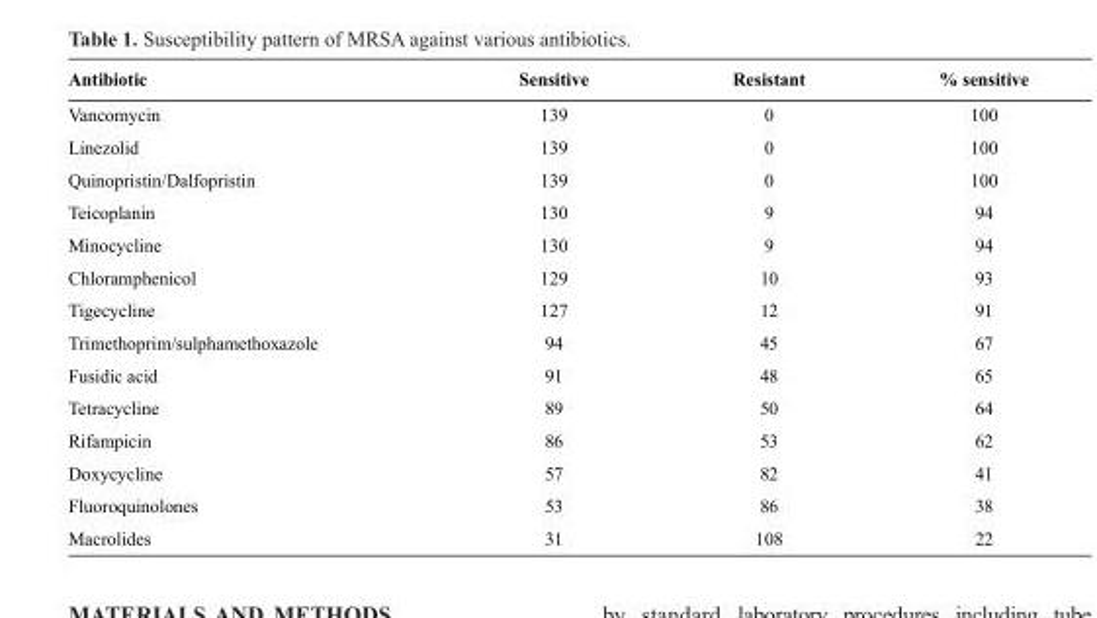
<table><thead><tr><td>Antibiotic</td><td>Sensitive</td><td>Resistant</td><td>% sensitive</td></tr></thead><tbody><tr><td>Vancomycin</td><td>139</td><td>0</td><td>100</td></tr><tr><td>Linezolid</td><td>139</td><td>0</td><td>100</td></tr><tr><td>Quinopristin/Dalfopristin</td><td>139</td><td>0</td><td>100</td></tr><tr><td>Teicoplanin</td><td>130</td><td>9</td><td>94</td></tr><tr><td>Minocycline</td><td>130</td><td>9</td><td>94</td></tr><tr><td>Chloramphenicol</td><td>129</td><td>10</td><td>93</td></tr><tr><td>Tigecycline</td><td>127</td><td>12</td><td>91</td></tr><tr><td>Trimethoprim/sulphamethoxazole</td><td>94</td><td>45</td><td>67</td></tr><tr><td>Fusidic acid</td><td>91</td><td>48</td><td>65</td></tr><tr><td>Tetracycline</td><td>89</td><td>50</td><td>64</td></tr><tr><td>Rifampicin</td><td>86</td><td>53</td><td>62</td></tr><tr><td>Doxycycline</td><td>57</td><td>82</td><td>41</td></tr><tr><td>Fluoroquinolones</td><td>53</td><td>86</td><td>38</td></tr><tr><td>Macrolides</td><td>31</td><td>108</td><td>22</td></tr></tbody></table>